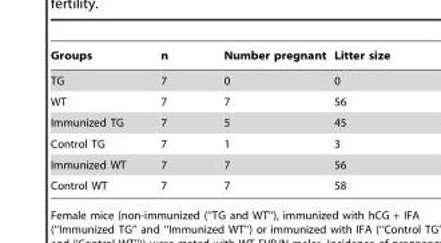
<table><thead><tr><td>Groups</td><td>n</td><td>Number pregnant</td><td>Litter size</td></tr></thead><tbody><tr><td>TG</td><td>7</td><td>0</td><td>0</td></tr><tr><td>WT</td><td>7</td><td>7</td><td>56</td></tr><tr><td>Immunized TG</td><td>7</td><td>5</td><td>45</td></tr><tr><td>Control TG</td><td>7</td><td>1</td><td>3</td></tr><tr><td>Immunized WT</td><td>7</td><td>7</td><td>56</td></tr><tr><td>Control WT</td><td>7</td><td>7</td><td>58</td></tr></tbody></table>